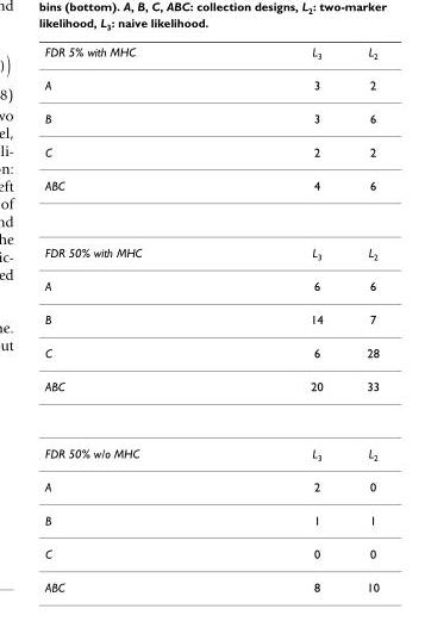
<table><thead><tr><td>FDR 5% with MHC</td><td>L3</td><td>L2</td></tr></thead><tbody><tr><td>A</td><td>3</td><td>2</td></tr><tr><td>B</td><td>3</td><td>6</td></tr><tr><td>C</td><td>2</td><td>2</td></tr><tr><td>ABC</td><td>4</td><td>6</td></tr><tr><td>FDR 50% with MHC</td><td>L3</td><td>L2</td></tr><tr><td>A</td><td>6</td><td>6</td></tr><tr><td>B</td><td>14</td><td>7</td></tr><tr><td>C</td><td>6</td><td>28</td></tr><tr><td>ABC</td><td>20</td><td>33</td></tr><tr><td>FDR 50% w/o MHC</td><td>L3</td><td>L2</td></tr><tr><td>A</td><td>2</td><td>0</td></tr><tr><td>B</td><td>1</td><td>1</td></tr><tr><td>C</td><td>0</td><td>0</td></tr><tr><td>ABC</td><td>8</td><td>10</td></tr></tbody></table>